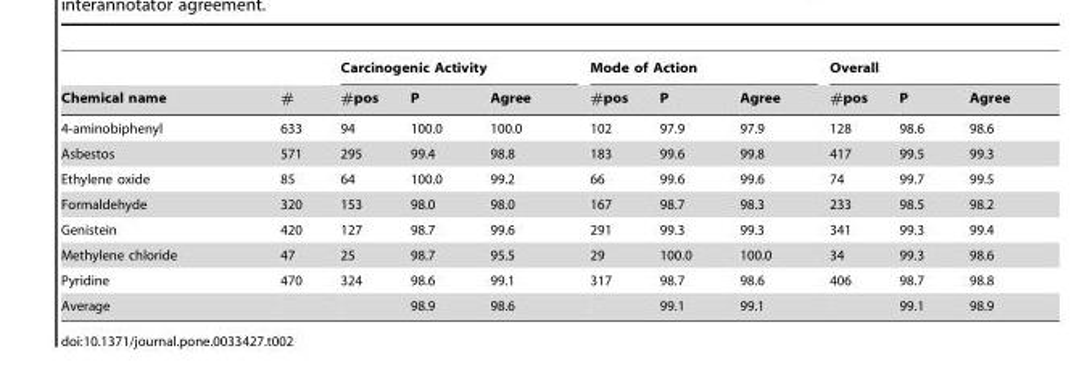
<table><thead><tr><td rowspan="2">Chemical name</td><td rowspan="2">#</td><td colspan="3">Carcinogenic Activity</td><td colspan="3">Mode of Action</td><td colspan="3">Overall</td></tr><tr><td>#pos</td><td>P</td><td>Agree</td><td>#pos</td><td>P</td><td>Agree</td><td>#pos</td><td>P</td><td>Agree</td></tr></thead><tbody><tr><td>4-aminobiphenyl</td><td>633</td><td>94</td><td>100.0</td><td>100.0</td><td>102</td><td>97.9</td><td>97.9</td><td>128</td><td>98.6</td><td>98.6</td></tr><tr><td>Asbestos</td><td>571</td><td>295</td><td>99.4</td><td>98.8</td><td>183</td><td>99.6</td><td>99.8</td><td>417</td><td>99.5</td><td>99.3</td></tr><tr><td>Ethylene oxide</td><td>85</td><td>64</td><td>100.0</td><td>99.2</td><td>66</td><td>99.6</td><td>99.6</td><td>74</td><td>99.7</td><td>99.5</td></tr><tr><td>Formaldehyde</td><td>320</td><td>153</td><td>98.0</td><td>98.0</td><td>167</td><td>98.7</td><td>98.3</td><td>233</td><td>98.5</td><td>98.2</td></tr><tr><td>Genistein</td><td>420</td><td>127</td><td>98.7</td><td>99.6</td><td>291</td><td>99.3</td><td>99.3</td><td>341</td><td>99.3</td><td>99.4</td></tr><tr><td>Methylene chloride</td><td>47</td><td>25</td><td>98.7</td><td>95.5</td><td>29</td><td>100.0</td><td>100.0</td><td>34</td><td>99.3</td><td>98.6</td></tr><tr><td>Pyridine</td><td>470</td><td>324</td><td>98.6</td><td>99.1</td><td>317</td><td>98.7</td><td>98.6</td><td>406</td><td>98.7</td><td>98.8</td></tr><tr><td>Average</td><td></td><td></td><td>98.9</td><td>98.6</td><td></td><td>99.1</td><td>99.1</td><td></td><td>99.1</td><td>98.9</td></tr></tbody></table>